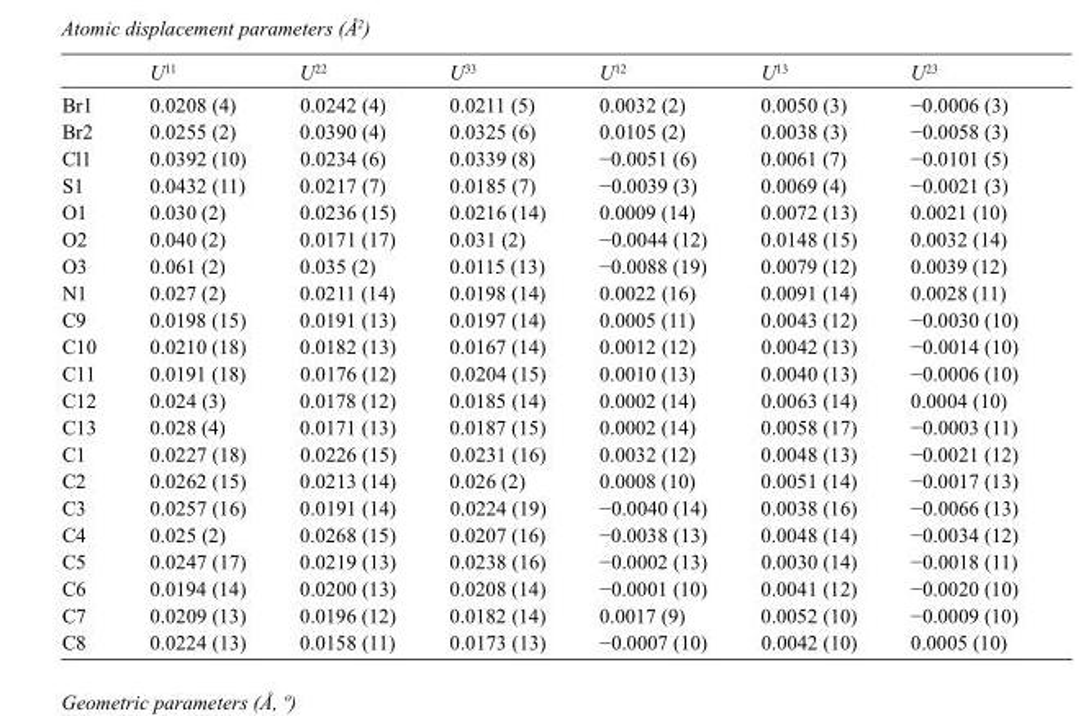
<table><thead><tr><td></td><td>U<sup>11</sup></td><td>U<sup>22</sup></td><td>U<sup>33</sup></td><td>U<sup>12</sup></td><td>U<sup>13</sup></td><td>U<sup>23</sup></td></tr></thead><tbody><tr><td>Br1</td><td>0.0208 (4)</td><td>0.0242 (4)</td><td>0.0211 (5)</td><td>0.0032 (2)</td><td>0.0050 (3)</td><td>−0.0006 (3)</td></tr><tr><td>Br2</td><td>0.0255 (2)</td><td>0.0390 (4)</td><td>0.0325 (6)</td><td>0.0105 (2)</td><td>0.0038 (3)</td><td>−0.0058 (3)</td></tr><tr><td>Cl1</td><td>0.0392 (10)</td><td>0.0234 (6)</td><td>0.0339 (8)</td><td>−0.0051 (6)</td><td>0.0061 (7)</td><td>−0.0101 (5)</td></tr><tr><td>S1</td><td>0.0432 (11)</td><td>0.0217 (7)</td><td>0.0185 (7)</td><td>−0.0039 (3)</td><td>0.0069 (4)</td><td>−0.0021 (3)</td></tr><tr><td>O1</td><td>0.030 (2)</td><td>0.0236 (15)</td><td>0.0216 (14)</td><td>0.0009 (14)</td><td>0.0072 (13)</td><td>0.0021 (10)</td></tr><tr><td>O2</td><td>0.040 (2)</td><td>0.0171 (17)</td><td>0.031 (2)</td><td>−0.0044 (12)</td><td>0.0148 (15)</td><td>0.0032 (14)</td></tr><tr><td>O3</td><td>0.061 (2)</td><td>0.035 (2)</td><td>0.0115 (13)</td><td>−0.0088 (19)</td><td>0.0079 (12)</td><td>0.0039 (12)</td></tr><tr><td>N1</td><td>0.027 (2)</td><td>0.0211 (14)</td><td>0.0198 (14)</td><td>0.0022 (16)</td><td>0.0091 (14)</td><td>0.0028 (11)</td></tr><tr><td>C9</td><td>0.0198 (15)</td><td>0.0191 (13)</td><td>0.0197 (14)</td><td>0.0005 (11)</td><td>0.0043 (12)</td><td>−0.0030 (10)</td></tr><tr><td>C10</td><td>0.0210 (18)</td><td>0.0182 (13)</td><td>0.0167 (14)</td><td>0.0012 (12)</td><td>0.0042 (13)</td><td>−0.0014 (10)</td></tr><tr><td>C11</td><td>0.0191 (18)</td><td>0.0176 (12)</td><td>0.0204 (15)</td><td>0.0010 (13)</td><td>0.0040 (13)</td><td>−0.0006 (10)</td></tr><tr><td>C12</td><td>0.024 (3)</td><td>0.0178 (12)</td><td>0.0185 (14)</td><td>0.0002 (14)</td><td>0.0063 (14)</td><td>0.0004 (10)</td></tr><tr><td>C13</td><td>0.028 (4)</td><td>0.0171 (13)</td><td>0.0187 (15)</td><td>0.0002 (14)</td><td>0.0058 (17)</td><td>−0.0003 (11)</td></tr><tr><td>C1</td><td>0.0227 (18)</td><td>0.0226 (15)</td><td>0.0231 (16)</td><td>0.0032 (12)</td><td>0.0048 (13)</td><td>−0.0021 (12)</td></tr><tr><td>C2</td><td>0.0262 (15)</td><td>0.0213 (14)</td><td>0.026 (2)</td><td>0.0008 (10)</td><td>0.0051 (14)</td><td>−0.0017 (13)</td></tr><tr><td>C3</td><td>0.0257 (16)</td><td>0.0191 (14)</td><td>0.0224 (19)</td><td>−0.0040 (14)</td><td>0.0038 (16)</td><td>−0.0066 (13)</td></tr><tr><td>C4</td><td>0.025 (2)</td><td>0.0268 (15)</td><td>0.0207 (16)</td><td>−0.0038 (13)</td><td>0.0048 (14)</td><td>−0.0034 (12)</td></tr><tr><td>C5</td><td>0.0247 (17)</td><td>0.0219 (13)</td><td>0.0238 (16)</td><td>−0.0002 (13)</td><td>0.0030 (14)</td><td>−0.0018 (11)</td></tr><tr><td>C6</td><td>0.0194 (14)</td><td>0.0200 (13)</td><td>0.0208 (14)</td><td>−0.0001 (10)</td><td>0.0041 (12)</td><td>−0.0020 (10)</td></tr><tr><td>C7</td><td>0.0209 (13)</td><td>0.0196 (12)</td><td>0.0182 (14)</td><td>0.0017 (9)</td><td>0.0052 (10)</td><td>−0.0009 (10)</td></tr><tr><td>C8</td><td>0.0224 (13)</td><td>0.0158 (11)</td><td>0.0173 (13)</td><td>−0.0007 (10)</td><td>0.0042 (10)</td><td>0.0005 (10)</td></tr></tbody></table>